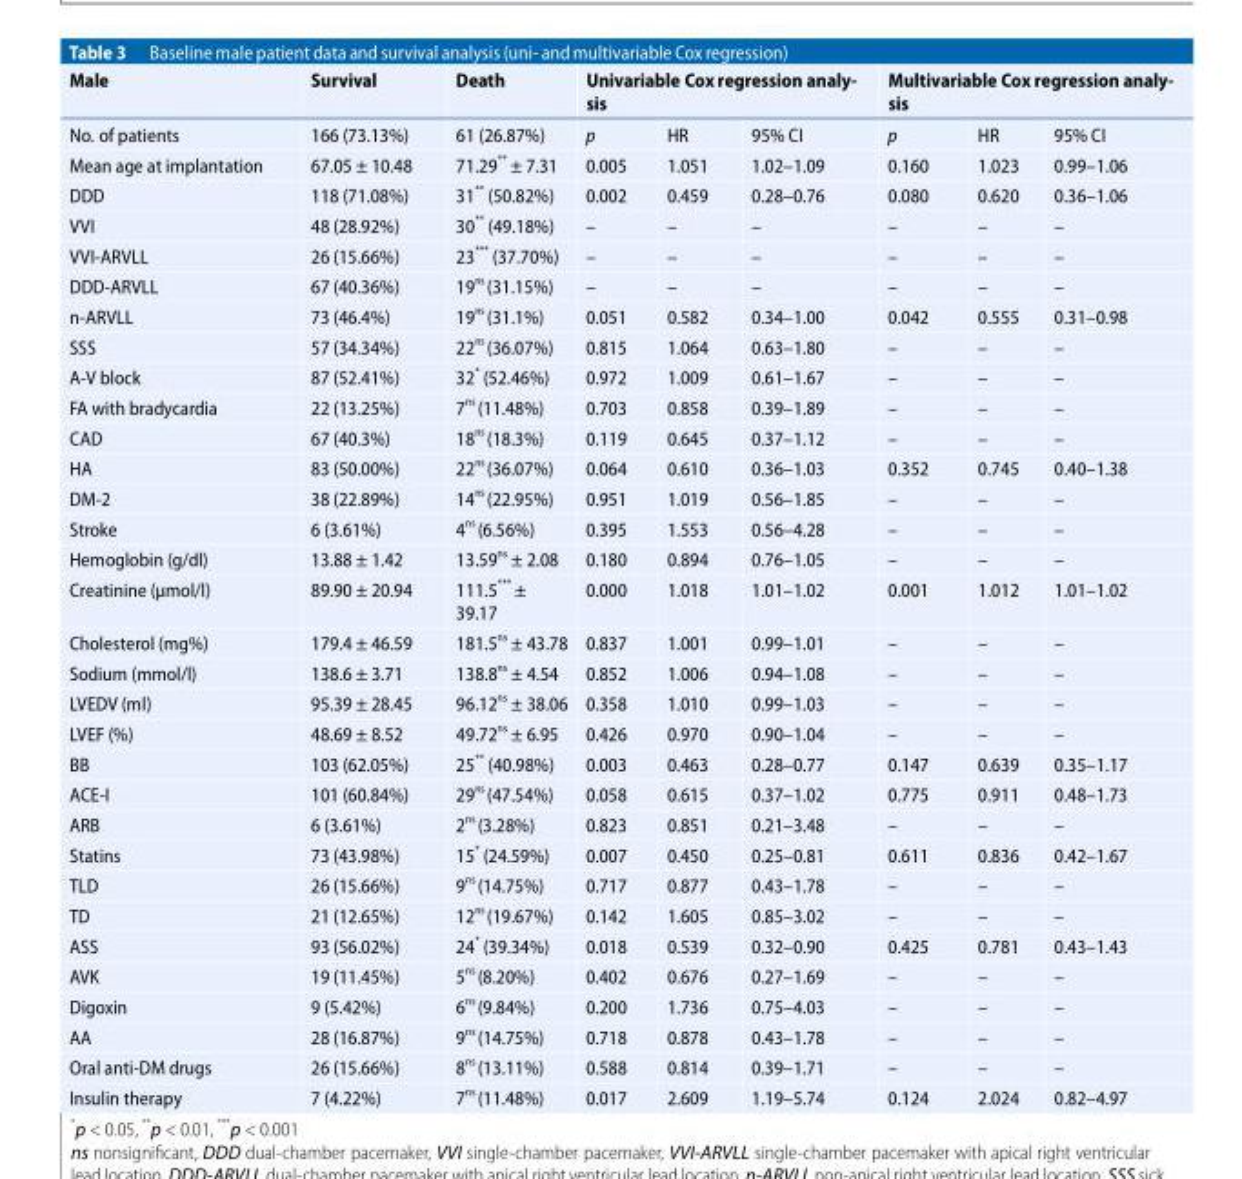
<table><thead><tr><td rowspan="2">Male No. of patients</td><td rowspan="2">Survival 166 (73.13%)</td><td rowspan="2">Death 61 (26.87%)</td><td colspan="3">Univariable Cox regression analy- sis</td><td colspan="3">Multivariable Cox regression analy- sis</td></tr><tr><td>p</td><td>HR</td><td>95% CI</td><td>p</td><td>HR</td><td>95% CI</td></tr></thead><tbody><tr><td>Mean age at implantation</td><td>67.05 ± 10.48</td><td>71.29 ** ± 7.31</td><td>0.005</td><td>1.051</td><td>1.02–1.09</td><td>0.160</td><td>1.023</td><td>0.99–1.06</td></tr><tr><td>DDD</td><td>118 (71.08%)</td><td>31 ** (50.82%)</td><td>0.002</td><td>0.459</td><td>0.28–0.76</td><td>0.080</td><td>0.620</td><td>0.36–1.06</td></tr><tr><td>VVI</td><td>48 (28.92%)</td><td>30 ** (49.18%)</td><td>–</td><td>–</td><td>–</td><td>–</td><td>–</td><td>–</td></tr><tr><td>VVI-ARVLL</td><td>26 (15.66%)</td><td>23 *** (37.70%)</td><td>–</td><td>–</td><td>–</td><td>–</td><td>–</td><td>–</td></tr><tr><td>DDD-ARVLL</td><td>67 (40.36%)</td><td>19 <sup>ns</sup>(31.15%)</td><td>–</td><td>–</td><td>–</td><td>–</td><td>–</td><td>–</td></tr><tr><td>n-ARVLL</td><td>73 (46.4%)</td><td>19 <sup>ns</sup>(31.1%)</td><td>0.051</td><td>0.582</td><td>0.34–1.00</td><td>0.042</td><td>0.555</td><td>0.31–0.98</td></tr><tr><td>SSS</td><td>57 (34.34%)</td><td>22 <sup>ns</sup>(36.07%)</td><td>0.815</td><td>1.064</td><td>0.63–1.80</td><td>–</td><td>–</td><td>–</td></tr><tr><td>A-V block</td><td>87 (52.41%)</td><td>32 * (52.46%)</td><td>0.972</td><td>1.009</td><td>0.61–1.67</td><td>–</td><td>–</td><td>–</td></tr><tr><td>FA with bradycardia</td><td>22 (13.25%)</td><td>7 <sup>ns</sup>(11.48%)</td><td>0.703</td><td>0.858</td><td>0.39–1.89</td><td>–</td><td>–</td><td>–</td></tr><tr><td>CAD</td><td>67 (40.3%)</td><td>18 <sup>ns</sup>(18.3%)</td><td>0.119</td><td>0.645</td><td>0.37–1.12</td><td>–</td><td>–</td><td>–</td></tr><tr><td>HA</td><td>83 (50.00%)</td><td>22 <sup>ns</sup>(36.07%)</td><td>0.064</td><td>0.610</td><td>0.36–1.03</td><td>0.352</td><td>0.745</td><td>0.40–1.38</td></tr><tr><td>DM-2</td><td>38 (22.89%)</td><td>14 <sup>ns</sup>(22.95%)</td><td>0.951</td><td>1.019</td><td>0.56–1.85</td><td>–</td><td>–</td><td>–</td></tr><tr><td>Stroke</td><td>6 (3.61%)</td><td>4 <sup>ns</sup>(6.56%)</td><td>0.395</td><td>1.553</td><td>0.56–4.28</td><td>–</td><td>–</td><td>–</td></tr><tr><td>Hemoglobin (g/dl)</td><td>13.88 ± 1.42</td><td>13.59 <sup>ns</sup> ± 2.08</td><td>0.180</td><td>0.894</td><td>0.76–1.05</td><td>–</td><td>–</td><td>–</td></tr><tr><td>Creatinine (μmol/l)</td><td>89.90 ± 20.94</td><td>111.5 *** ± 39.17</td><td>0.000</td><td>1.018</td><td>1.01–1.02</td><td>0.001</td><td>1.012</td><td>1.01–1.02</td></tr><tr><td>Cholesterol (mg%)</td><td>179.4 ± 46.59</td><td>181.5<sup>ns</sup> ± 43.78</td><td>0.837</td><td>1.001</td><td>0.99–1.01</td><td>–</td><td>–</td><td>–</td></tr><tr><td>Sodium (mmol/l)</td><td>138.6 ± 3.71</td><td>138.8<sup>ns</sup> ± 4.54</td><td>0.852</td><td>1.006</td><td>0.94–1.08</td><td>–</td><td>–</td><td>–</td></tr><tr><td>LVEDV (ml)</td><td>95.39 ± 28.45</td><td>96.12<sup>ns</sup> ± 38.06</td><td>0.358</td><td>1.010</td><td>0.99–1.03</td><td>–</td><td>–</td><td>–</td></tr><tr><td>LVEF (%)</td><td>48.69 ± 8.52</td><td>49.72<sup>ns</sup> ± 6.95</td><td>0.426</td><td>0.970</td><td>0.90–1.04</td><td>–</td><td>–</td><td>–</td></tr><tr><td>BB</td><td>103 (62.05%)</td><td>25** (40.98%)</td><td>0.003</td><td>0.463</td><td>0.28–0.77</td><td>0.147</td><td>0.639</td><td>0.35–1.17</td></tr><tr><td>ACE-I</td><td>101 (60.84%)</td><td>29<sup>ns</sup>(47.54%)</td><td>0.058</td><td>0.615</td><td>0.37–1.02</td><td>0.775</td><td>0.911</td><td>0.48–1.73</td></tr><tr><td>ARB</td><td>6 (3.61%)</td><td>2<sup>ns</sup>(3.28%)</td><td>0.823</td><td>0.851</td><td>0.21–3.48</td><td>–</td><td>–</td><td>–</td></tr><tr><td>Statins</td><td>73 (43.98%)</td><td>15* (24.59%)</td><td>0.007</td><td>0.450</td><td>0.25–0.81</td><td>0.611</td><td>0.836</td><td>0.42–1.67</td></tr><tr><td>TLD</td><td>26 (15.66%)</td><td>9<sup>ns</sup>(14.75%)</td><td>0.717</td><td>0.877</td><td>0.43–1.78</td><td>–</td><td>–</td><td>–</td></tr><tr><td>TD</td><td>21 (12.65%)</td><td>12<sup>ns</sup>(19.67%)</td><td>0.142</td><td>1.605</td><td>0.85–3.02</td><td>–</td><td>–</td><td>–</td></tr><tr><td>ASS</td><td>93 (56.02%)</td><td>24* (39.34%)</td><td>0.018</td><td>0.539</td><td>0.32–0.90</td><td>0.425</td><td>0.781</td><td>0.43–1.43</td></tr><tr><td>AVK</td><td>19 (11.45%)</td><td>5<sup>ns</sup>(8.20%)</td><td>0.402</td><td>0.676</td><td>0.27–1.69</td><td>–</td><td>–</td><td>–</td></tr><tr><td>Digoxin</td><td>9 (5.42%)</td><td>6<sup>ns</sup>(9.84%)</td><td>0.200</td><td>1.736</td><td>0.75–4.03</td><td>–</td><td>–</td><td>–</td></tr><tr><td>AA</td><td>28 (16.87%)</td><td>9<sup>ns</sup>(14.75%)</td><td>0.718</td><td>0.878</td><td>0.43–1.78</td><td>–</td><td>–</td><td>–</td></tr><tr><td>Oral anti-DM drugs</td><td>26 (15.66%)</td><td>8<sup>ns</sup>(13.11%)</td><td>0.588</td><td>0.814</td><td>0.39–1.71</td><td>–</td><td>–</td><td>–</td></tr><tr><td>Insulin therapy</td><td>7 (4.22%)</td><td>7<sup>ns</sup>(11.48%)</td><td>0.017</td><td>2.609</td><td>1.19–5.74</td><td>0.124</td><td>2.024</td><td>0.82–4.97</td></tr></tbody></table>